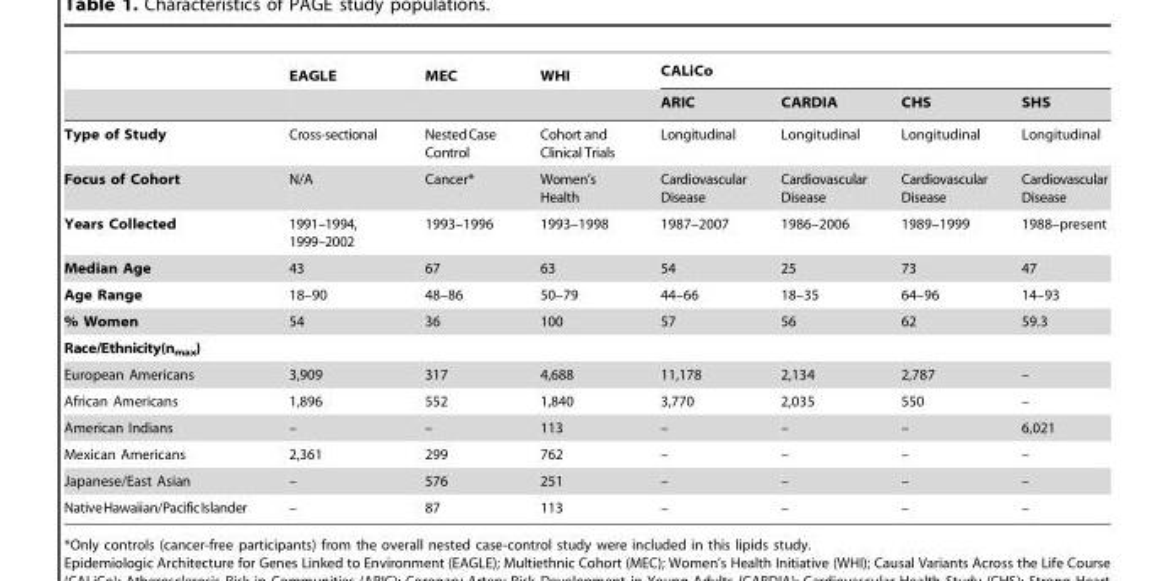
<table><thead><tr><td rowspan="2"></td><td rowspan="2">EAGLE</td><td rowspan="2">MEC</td><td rowspan="2">WHI</td><td colspan="4">CALiCo</td></tr><tr><td>ARIC</td><td>CARDIA</td><td>CHS</td><td>SHS</td></tr></thead><tbody><tr><td>Type of Study</td><td>Cross-sectional</td><td>NestedCase Control</td><td>Cohort and Clinical Trials</td><td>Longitudinal</td><td>Longitudinal</td><td>Longitudinal</td><td>Longitudinal</td></tr><tr><td>Focus of Cohort</td><td>N/A</td><td>Cancer*</td><td>Women’s Health</td><td>Cardiovascular Disease</td><td>Cardiovascular Disease</td><td>Cardiovascular Disease</td><td>Cardiovascular Disease</td></tr><tr><td>Years Collected</td><td>1991–1994, 1999–2002</td><td>1993–1996</td><td>1993–1998</td><td>1987–2007</td><td>1986–2006</td><td>1989–1999</td><td>1988–present</td></tr><tr><td>Median Age</td><td>43</td><td>67</td><td>63</td><td>54</td><td>25</td><td>73</td><td>47</td></tr><tr><td>Age Range</td><td>18–90</td><td>48–86</td><td>50–79</td><td>44–66</td><td>18–35</td><td>64–96</td><td>14–93</td></tr><tr><td>% Women</td><td>54</td><td>36</td><td>100</td><td>57</td><td>56</td><td>62</td><td>59.3</td></tr><tr><td colspan="8">Race/Ethnicity(n<sub>max</sub>)</td></tr><tr><td>European Americans</td><td>3,909</td><td>317</td><td>4,688</td><td>11,178</td><td>2,134</td><td>2,787</td><td>–</td></tr><tr><td>African Americans</td><td>1,896</td><td>552</td><td>1,840</td><td>3,770</td><td>2,035</td><td>550</td><td>–</td></tr><tr><td>American Indians</td><td>–</td><td>–</td><td>113</td><td>–</td><td>–</td><td>–</td><td>6,021</td></tr><tr><td>Mexican Americans</td><td>2,361</td><td>299</td><td>762</td><td>–</td><td>–</td><td>–</td><td>–</td></tr><tr><td>Japanese/East Asian</td><td>–</td><td>576</td><td>251</td><td>–</td><td>–</td><td>–</td><td>–</td></tr><tr><td>NativeHawaiian/PacificIslander</td><td>–</td><td>87</td><td>113</td><td>–</td><td>–</td><td>–</td><td>–</td></tr></tbody></table>